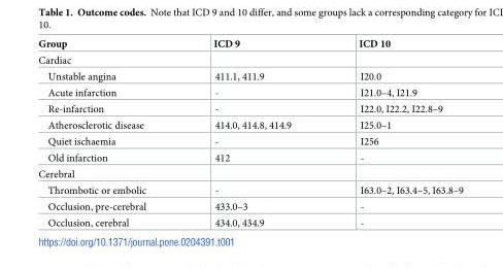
<table><thead><tr><td>Group</td><td>ICD 9</td><td>ICD 10</td></tr></thead><tbody><tr><td colspan="3">Cardiac</td></tr><tr><td>Unstable angina</td><td>411.1, 411.9</td><td>I20.0</td></tr><tr><td>Acute infarction</td><td>-</td><td>I21.0–4, I21.9</td></tr><tr><td>Re-infarction</td><td>-</td><td>I22.0, I22.2, I22.8–9</td></tr><tr><td>Atherosclerotic disease</td><td>414.0, 414.8, 414.9</td><td>I25.0–1</td></tr><tr><td>Quiet ischaemia</td><td>-</td><td>I256</td></tr><tr><td>Old infarction</td><td>412</td><td>-</td></tr><tr><td colspan="3">Cerebral</td></tr><tr><td>Thrombotic or embolic</td><td>-</td><td>I63.0–2, I63.4–5, I63.8–9</td></tr><tr><td>Occlusion, pre-cerebral</td><td>433.0–3</td><td>-</td></tr><tr><td>Occlusion, cerebral</td><td>434.0, 434.9</td><td>-</td></tr></tbody></table>